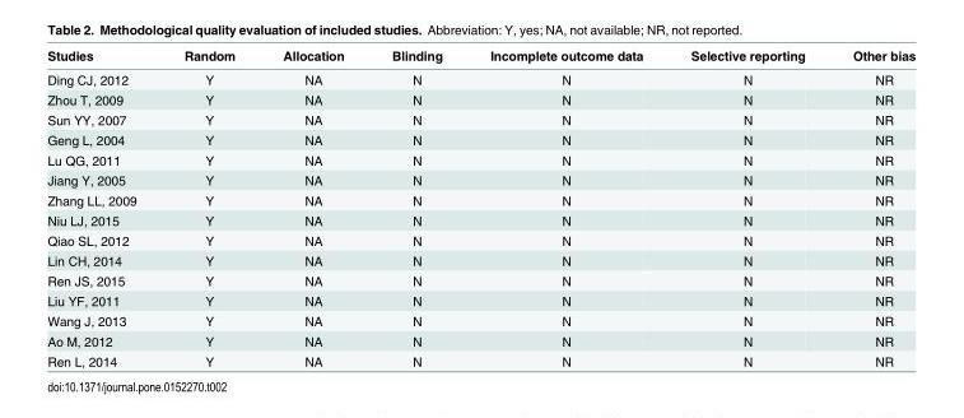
<table><thead><tr><td>Studies</td><td>Random</td><td>Allocation</td><td>Blinding</td><td>Incomplete outcome data</td><td>Selective reporting</td><td>Other bias</td></tr></thead><tbody><tr><td>Ding CJ, 2012</td><td>Y</td><td>NA</td><td>N</td><td>N</td><td>N</td><td>NR</td></tr><tr><td>Zhou T, 2009</td><td>Y</td><td>NA</td><td>N</td><td>N</td><td>N</td><td>NR</td></tr><tr><td>Sun YY, 2007</td><td>Y</td><td>NA</td><td>N</td><td>N</td><td>N</td><td>NR</td></tr><tr><td>Geng L, 2004</td><td>Y</td><td>NA</td><td>N</td><td>N</td><td>N</td><td>NR</td></tr><tr><td>Lu QG, 2011</td><td>Y</td><td>NA</td><td>N</td><td>N</td><td>N</td><td>NR</td></tr><tr><td>Jiang Y, 2005</td><td>Y</td><td>NA</td><td>N</td><td>N</td><td>N</td><td>NR</td></tr><tr><td>Zhang LL, 2009</td><td>Y</td><td>NA</td><td>N</td><td>N</td><td>N</td><td>NR</td></tr><tr><td>Niu LJ, 2015</td><td>Y</td><td>NA</td><td>N</td><td>N</td><td>N</td><td>NR</td></tr><tr><td>Qiao SL, 2012</td><td>Y</td><td>NA</td><td>N</td><td>N</td><td>N</td><td>NR</td></tr><tr><td>Lin CH, 2014</td><td>Y</td><td>NA</td><td>N</td><td>N</td><td>N</td><td>NR</td></tr><tr><td>Ren JS, 2015</td><td>Y</td><td>NA</td><td>N</td><td>N</td><td>N</td><td>NR</td></tr><tr><td>Liu YF, 2011</td><td>Y</td><td>NA</td><td>N</td><td>N</td><td>N</td><td>NR</td></tr><tr><td>Wang J, 2013</td><td>Y</td><td>NA</td><td>N</td><td>N</td><td>N</td><td>NR</td></tr><tr><td>Ao M, 2012</td><td>Y</td><td>NA</td><td>N</td><td>N</td><td>N</td><td>NR</td></tr><tr><td>Ren L, 2014</td><td>Y</td><td>NA</td><td>N</td><td>N</td><td>N</td><td>NR</td></tr></tbody></table>